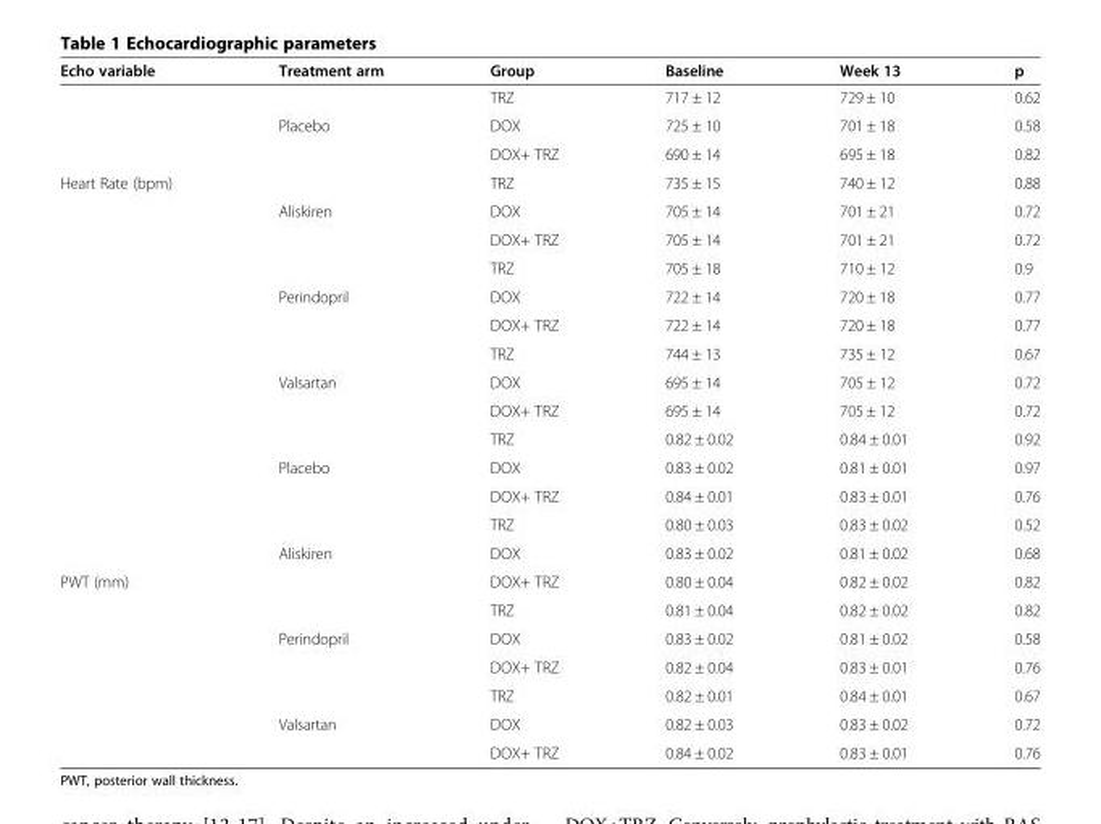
<table><thead><tr><td>Echo variable</td><td>Treatment arm</td><td>Group</td><td>Baseline</td><td>Week 13</td><td>p</td></tr></thead><tbody><tr><td></td><td></td><td>TRZ</td><td>717 ± 12</td><td>729 ± 10</td><td>0.62</td></tr><tr><td></td><td>Placebo</td><td>DOX</td><td>725 ± 10</td><td>701 ± 18</td><td>0.58</td></tr><tr><td></td><td></td><td>DOX+ TRZ</td><td>690 ± 14</td><td>695 ± 18</td><td>0.82</td></tr><tr><td rowspan="14">Heart Rate (bpm)</td><td></td><td>TRZ</td><td>735 ± 15</td><td>740 ± 12</td><td>0.88</td></tr><tr><td>Aliskiren</td><td>DOX</td><td>705 ± 14</td><td>701 ± 21</td><td>0.72</td></tr><tr><td></td><td>DOX+ TRZ</td><td>705 ± 14</td><td>701 ± 21</td><td>0.72</td></tr><tr><td></td><td>TRZ</td><td>705 ± 18</td><td>710 ± 12</td><td>0.9</td></tr><tr><td>Perindopril</td><td>DOX</td><td>722 ± 14</td><td>720 ± 18</td><td>0.77</td></tr><tr><td></td><td>DOX+ TRZ</td><td>722 ± 14</td><td>720 ± 18</td><td>0.77</td></tr><tr><td></td><td>TRZ</td><td>744 ± 13</td><td>735 ± 12</td><td>0.67</td></tr><tr><td>Valsartan</td><td>DOX</td><td>695 ± 14</td><td>705 ± 12</td><td>0.72</td></tr><tr><td></td><td>DOX+ TRZ</td><td>695 ± 14</td><td>705 ± 12</td><td>0.72</td></tr><tr><td></td><td>TRZ</td><td>0.82 ± 0.02</td><td>0.84 ± 0.01</td><td>0.92</td></tr><tr><td>Placebo</td><td>DOX</td><td>0.83 ± 0.02</td><td>0.81 ± 0.01</td><td>0.97</td></tr><tr><td></td><td>DOX+ TRZ</td><td>0.84 ± 0.01</td><td>0.83 ± 0.01</td><td>0.76</td></tr><tr><td></td><td>TRZ</td><td>0.80 ± 0.03</td><td>0.83 ± 0.02</td><td>0.52</td></tr><tr><td>Aliskiren</td><td>DOX</td><td>0.83 ± 0.02</td><td>0.81 ± 0.02</td><td>0.68</td></tr><tr><td rowspan="7">PWT (mm)</td><td></td><td>DOX+ TRZ</td><td>0.80 ± 0.04</td><td>0.82 ± 0.02</td><td>0.82</td></tr><tr><td></td><td>TRZ</td><td>0.81 ± 0.04</td><td>0.82 ± 0.02</td><td>0.82</td></tr><tr><td>Perindopril</td><td>DOX</td><td>0.83 ± 0.02</td><td>0.81 ± 0.02</td><td>0.58</td></tr><tr><td></td><td>DOX+ TRZ</td><td>0.82 ± 0.04</td><td>0.83 ± 0.01</td><td>0.76</td></tr><tr><td></td><td>TRZ</td><td>0.82 ± 0.01</td><td>0.84 ± 0.01</td><td>0.67</td></tr><tr><td>Valsartan</td><td>DOX</td><td>0.82 ± 0.03</td><td>0.83 ± 0.02</td><td>0.72</td></tr><tr><td></td><td>DOX+ TRZ</td><td>0.84 ± 0.02</td><td>0.83 ± 0.01</td><td>0.76</td></tr></tbody></table>